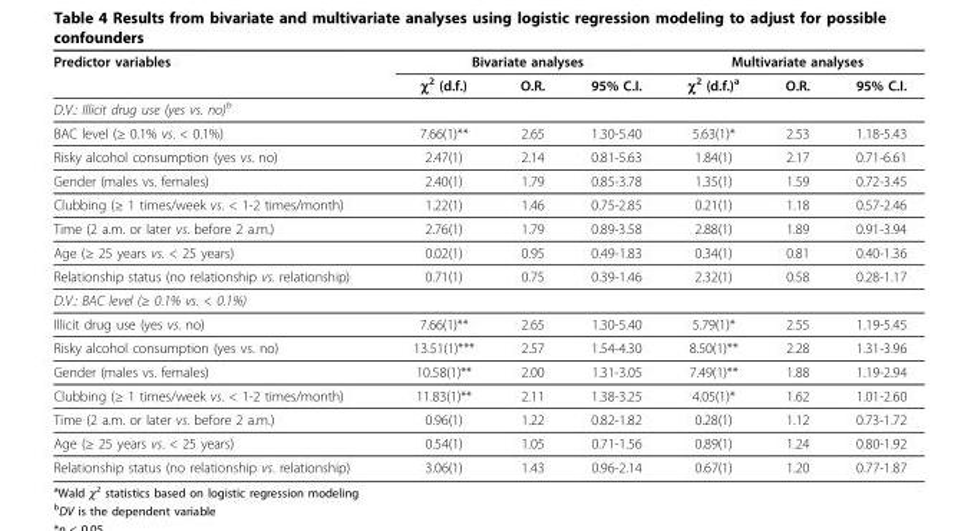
<table><thead><tr><td rowspan="2">Predictor variables</td><td colspan="3">Bivariate analyses</td><td colspan="3">Multivariate analyses</td></tr><tr><td>χ<sup>2</sup> (d.f.)</td><td>O.R.</td><td>95% C.I.</td><td>χ<sup>2</sup> (d.f.)<sup>a</sup></td><td>O.R.</td><td>95% C.I.</td></tr></thead><tbody><tr><td colspan="7">D.V.: Illicit drug use (yes vs. no)<sup>b</sup></td></tr><tr><td>BAC level (≥ 0.1% vs. &lt; 0.1%)</td><td>7.66(1)**</td><td>2.65</td><td>1.30-5.40</td><td>5.63(1)*</td><td>2.53</td><td>1.18-5.43</td></tr><tr><td>Risky alcohol consumption (yes vs. no)</td><td>2.47(1)</td><td>2.14</td><td>0.81-5.63</td><td>1.84(1)</td><td>2.17</td><td>0.71-6.61</td></tr><tr><td>Gender (males vs. females)</td><td>2.40(1)</td><td>1.79</td><td>0.85-3.78</td><td>1.35(1)</td><td>1.59</td><td>0.72-3.45</td></tr><tr><td>Clubbing (≥ 1 times/week vs. &lt; 1-2 times/month)</td><td>1.22(1)</td><td>1.46</td><td>0.75-2.85</td><td>0.21(1)</td><td>1.18</td><td>0.57-2.46</td></tr><tr><td>Time (2 a.m. or later vs. before 2 a.m.)</td><td>2.76(1)</td><td>1.79</td><td>0.89-3.58</td><td>2.88(1)</td><td>1.89</td><td>0.91-3.94</td></tr><tr><td>Age (≥ 25 years vs. &lt; 25 years)</td><td>0.02(1)</td><td>0.95</td><td>0.49-1.83</td><td>0.34(1)</td><td>0.81</td><td>0.40-1.36</td></tr><tr><td>Relationship status (no relationship vs. relationship)</td><td>0.71(1)</td><td>0.75</td><td>0.39-1.46</td><td>2.32(1)</td><td>0.58</td><td>0.28-1.17</td></tr><tr><td colspan="7">D.V.: BAC level (≥ 0.1% vs. &lt; 0.1%)</td></tr><tr><td>Illicit drug use (yes vs. no)</td><td>7.66(1)**</td><td>2.65</td><td>1.30-5.40</td><td>5.79(1)*</td><td>2.55</td><td>1.19-5.45</td></tr><tr><td>Risky alcohol consumption (yes vs. no)</td><td>13.51(1)***</td><td>2.57</td><td>1.54-4.30</td><td>8.50(1)**</td><td>2.28</td><td>1.31-3.96</td></tr><tr><td>Gender (males vs. females)</td><td>10.58(1)**</td><td>2.00</td><td>1.31-3.05</td><td>7.49(1)**</td><td>1.88</td><td>1.19-2.94</td></tr><tr><td>Clubbing (≥ 1 times/week vs. &lt; 1-2 times/month)</td><td>11.83(1)**</td><td>2.11</td><td>1.38-3.25</td><td>4.05(1)*</td><td>1.62</td><td>1.01-2.60</td></tr><tr><td>Time (2 a.m. or later vs. before 2 a.m.)</td><td>0.96(1)</td><td>1.22</td><td>0.82-1.82</td><td>0.28(1)</td><td>1.12</td><td>0.73-1.72</td></tr><tr><td>Age (≥ 25 years vs. &lt; 25 years)</td><td>0.54(1)</td><td>1.05</td><td>0.71-1.56</td><td>0.89(1)</td><td>1.24</td><td>0.80-1.92</td></tr><tr><td>Relationship status (no relationship vs. relationship)</td><td>3.06(1)</td><td>1.43</td><td>0.96-2.14</td><td>0.67(1)</td><td>1.20</td><td>0.77-1.87</td></tr></tbody></table>